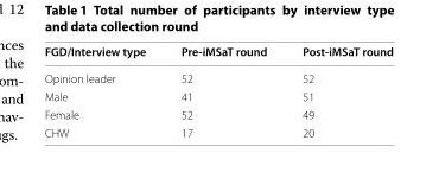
<table><thead><tr><td>FGD/Interview type</td><td>Pre-iMSaT round</td><td>Post-iMSaT round</td></tr></thead><tbody><tr><td>Opinion leader</td><td>52</td><td>52</td></tr><tr><td>Male</td><td>41</td><td>51</td></tr><tr><td>Female</td><td>52</td><td>49</td></tr><tr><td>CHW</td><td>17</td><td>20</td></tr></tbody></table>